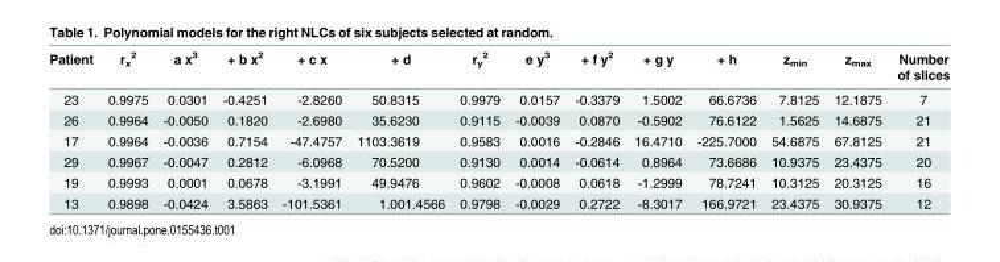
<table><thead><tr><td>Patient</td><td>r<sub>x</sub> <sup>2</sup></td><td>a x<sup>3</sup></td><td>+ b x<sup>2</sup></td><td>+ c x</td><td>+ d</td><td>r<sub>y</sub> <sup>2</sup></td><td>e y<sup>3</sup></td><td>+ f y<sup>2</sup></td><td>+ g y</td><td>+ h</td><td>z<sub>min</sub></td><td>z<sub>max</sub></td><td>Number of slices</td></tr></thead><tbody><tr><td>23</td><td>0.9975</td><td>0.0301</td><td>-0.4251</td><td>-2.8260</td><td>50.8315</td><td>0.9979</td><td>0.0157</td><td>-0.3379</td><td>1.5002</td><td>66.6736</td><td>7.8125</td><td>12.1875</td><td>7</td></tr><tr><td>26</td><td>0.9964</td><td>-0.0050</td><td>0.1820</td><td>-2.6980</td><td>35.6230</td><td>0.9115</td><td>-0.0039</td><td>0.0870</td><td>-0.5902</td><td>76.6122</td><td>1.5625</td><td>14.6875</td><td>21</td></tr><tr><td>17</td><td>0.9964</td><td>-0.0036</td><td>0.7154</td><td>-47.4757</td><td>1103.3619</td><td>0.9583</td><td>0.0016</td><td>-0.2846</td><td>16.4710</td><td>-225.7000</td><td>54.6875</td><td>67.8125</td><td>21</td></tr><tr><td>29</td><td>0.9967</td><td>-0.0047</td><td>0.2812</td><td>-6.0968</td><td>70.5200</td><td>0.9130</td><td>0.0014</td><td>-0.0614</td><td>0.8964</td><td>73.6686</td><td>10.9375</td><td>23.4375</td><td>20</td></tr><tr><td>19</td><td>0.9993</td><td>0.0001</td><td>0.0678</td><td>-3.1991</td><td>49.9476</td><td>0.9602</td><td>-0.0008</td><td>0.0618</td><td>-1.2999</td><td>78.7241</td><td>10.3125</td><td>20.3125</td><td>16</td></tr><tr><td>13</td><td>0.9898</td><td>-0.0424</td><td>3.5863</td><td>-101.5361</td><td>1.001.4566</td><td>0.9798</td><td>-0.0029</td><td>0.2722</td><td>-8.3017</td><td>166.9721</td><td>23.4375</td><td>30.9375</td><td>12</td></tr></tbody></table>